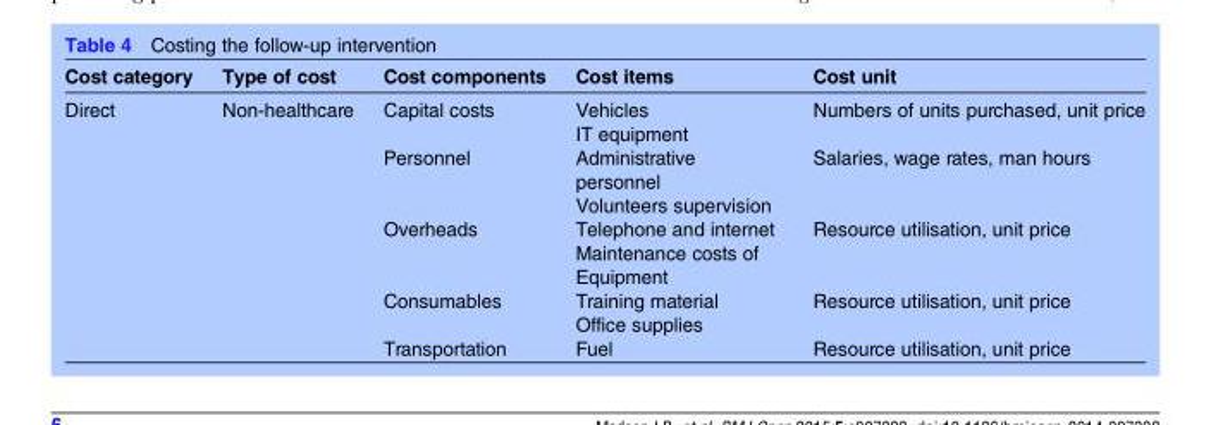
<table><thead><tr><td>Cost category</td><td>Type of cost</td><td>Cost components</td><td>Cost items</td><td>Cost unit</td></tr></thead><tbody><tr><td rowspan="6">Direct</td><td>Non-healthcare</td><td>Capital costs</td><td>Vehicles IT equipment</td><td>Numbers of units purchased, unit price</td></tr><tr><td></td><td>Personnel</td><td>Administrative personnel Volunteers supervision</td><td>Salaries, wage rates, man hours</td></tr><tr><td></td><td>Overheads</td><td>Telephone and internet Maintenance costs of</td><td>Resource utilisation, unit price</td></tr><tr><td></td><td></td><td>Equipment</td><td></td></tr><tr><td></td><td>Consumables</td><td>Training material Office supplies</td><td>Resource utilisation, unit price</td></tr><tr><td></td><td>Transportation</td><td>Fuel</td><td>Resource utilisation, unit price</td></tr></tbody></table>